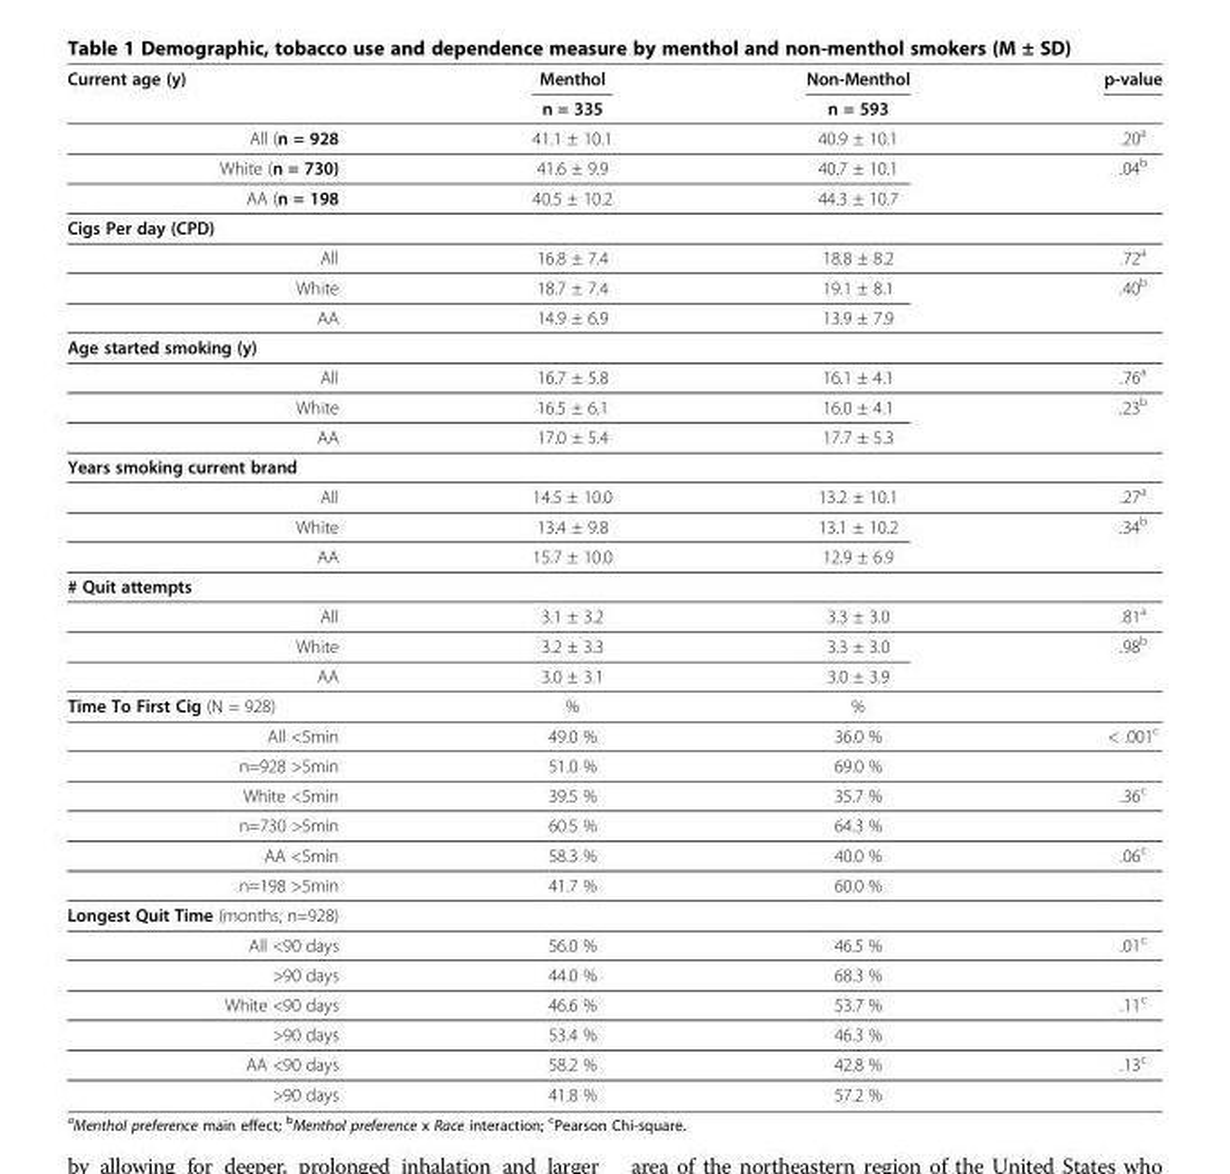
<table><thead><tr><td rowspan="2">Current age (y)</td><td rowspan="2">Menthol n = 335</td><td rowspan="2">Non-Menthol n = 593</td><td rowspan="2">p-value</td></tr><tr></tr></thead><tbody><tr><td>All (n = 928</td><td>41.1 ± 10.1</td><td>40.9 ± 10.1</td><td>.20<sup>a</sup></td></tr><tr><td>White (n = 730)</td><td>41.6 ± 9.9</td><td>40.7 ± 10.1</td><td rowspan="2">.04<sup>b</sup></td></tr><tr><td>AA (n = 198</td><td>40.5 ± 10.2</td><td>44.3 ± 10.7</td></tr><tr><td colspan="4">Cigs Per day (CPD)</td></tr><tr><td>All</td><td>16.8 ± 7.4</td><td>18.8 ± 8.2</td><td>.72<sup>a</sup></td></tr><tr><td>White</td><td>18.7 ± 7.4</td><td>19.1 ± 8.1</td><td rowspan="2">.40<sup>b</sup></td></tr><tr><td>AA</td><td>14.9 ± 6.9</td><td>13.9 ± 7.9</td></tr><tr><td colspan="4">Age started smoking (y)</td></tr><tr><td>All</td><td>16.7 ± 5.8</td><td>16.1 ± 4.1</td><td>.76<sup>a</sup></td></tr><tr><td>White</td><td>16.5 ± 6.1</td><td>16.0 ± 4.1</td><td rowspan="2">.23<sup>b</sup></td></tr><tr><td>AA</td><td>17.0 ± 5.4</td><td>17.7 ± 5.3</td></tr><tr><td colspan="4">Years smoking current brand</td></tr><tr><td>All</td><td>14.5 ± 10.0</td><td>13.2 ± 10.1</td><td>.27<sup>a</sup></td></tr><tr><td>White</td><td>13.4 ± 9.8</td><td>13.1 ± 10.2</td><td rowspan="2">.34<sup>b</sup></td></tr><tr><td>AA</td><td>15.7 ± 10.0</td><td>12.9 ± 6.9</td></tr><tr><td colspan="4"># Quit attempts</td></tr><tr><td>All</td><td>3.1 ± 3.2</td><td>3.3 ± 3.0</td><td>.81<sup>a</sup></td></tr><tr><td>White</td><td>3.2 ± 3.3</td><td>3.3 ± 3.0</td><td rowspan="2">.98<sup>b</sup></td></tr><tr><td>AA</td><td>3.0 ± 3.1</td><td>3.0 ± 3.9</td></tr><tr><td>Time To First Cig (N = 928)</td><td>%</td><td>%</td><td></td></tr><tr><td>All &lt;5min</td><td>49.0 %</td><td>36.0 %</td><td>&lt; .001<sup>c</sup></td></tr><tr><td>n=928 &gt;5min</td><td>51.0 %</td><td>69.0 %</td><td></td></tr><tr><td>White &lt;5min</td><td>39.5 %</td><td>35.7 %</td><td>.36<sup>c</sup></td></tr><tr><td>n=730 &gt;5min</td><td>60.5 %</td><td>64.3 %</td><td></td></tr><tr><td>AA &lt;5min</td><td>58.3 %</td><td>40.0 %</td><td>.06<sup>c</sup></td></tr><tr><td>n=198 &gt;5min</td><td>41.7 %</td><td>60.0 %</td><td></td></tr><tr><td colspan="4">Longest Quit Time (months; n=928)</td></tr><tr><td>All &lt;90 days</td><td>56.0 %</td><td>46.5 %</td><td>.01<sup>c</sup></td></tr><tr><td>&gt;90 days</td><td>44.0 %</td><td>68.3 %</td><td></td></tr><tr><td>White &lt;90 days</td><td>46.6 %</td><td>53.7 %</td><td>.11<sup>c</sup></td></tr><tr><td>&gt;90 days</td><td>53.4 %</td><td>46.3 %</td><td></td></tr><tr><td>AA &lt;90 days</td><td>58.2 %</td><td>42.8 %</td><td>.13<sup>c</sup></td></tr><tr><td>&gt;90 days</td><td>41.8 %</td><td>57.2 %</td><td></td></tr></tbody></table>